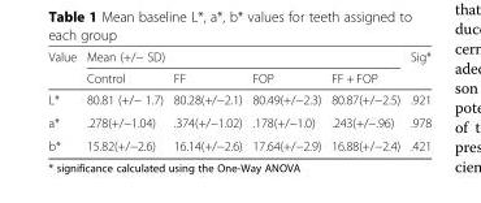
<table><thead><tr><td rowspan="2">Value</td><td colspan="4">Mean (+/− SD)</td><td rowspan="2">Sig*</td></tr><tr><td>Control</td><td>FF</td><td>FOP</td><td>FF + FOP</td></tr></thead><tbody><tr><td>L*</td><td>80.81 (+/− 1.7)</td><td>80.28(+/−2.1)</td><td>80.49(+/−2.3)</td><td>80.87(+/−2.5)</td><td>.921</td></tr><tr><td>a*</td><td>.278(+/−1.04)</td><td>.374(+/−1.02)</td><td>.178(+/−1.0)</td><td>.243(+/−.96)</td><td>.978</td></tr><tr><td>b*</td><td>15.82(+/−2.6)</td><td>16.14(+/−2.6)</td><td>17.64(+/−2.9)</td><td>16.88(+/−2.4)</td><td>.421</td></tr></tbody></table>